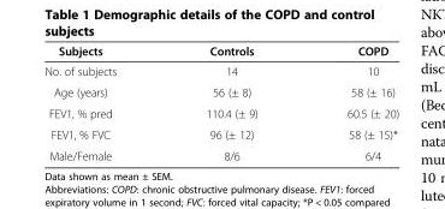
<table><thead><tr><td>Subjects</td><td>Controls</td><td>COPD</td></tr></thead><tbody><tr><td>No. of subjects</td><td>14</td><td>10</td></tr><tr><td>Age (years)</td><td>56 (± 8)</td><td>58 (± 16)</td></tr><tr><td>FEV1, % pred</td><td>110.4 (± 9)</td><td>60.5 (± 20)</td></tr><tr><td>FEV1, % FVC</td><td>96 (± 12)</td><td>58 (± 15)*</td></tr><tr><td>Male/Female</td><td>8/6</td><td>6/4</td></tr></tbody></table>